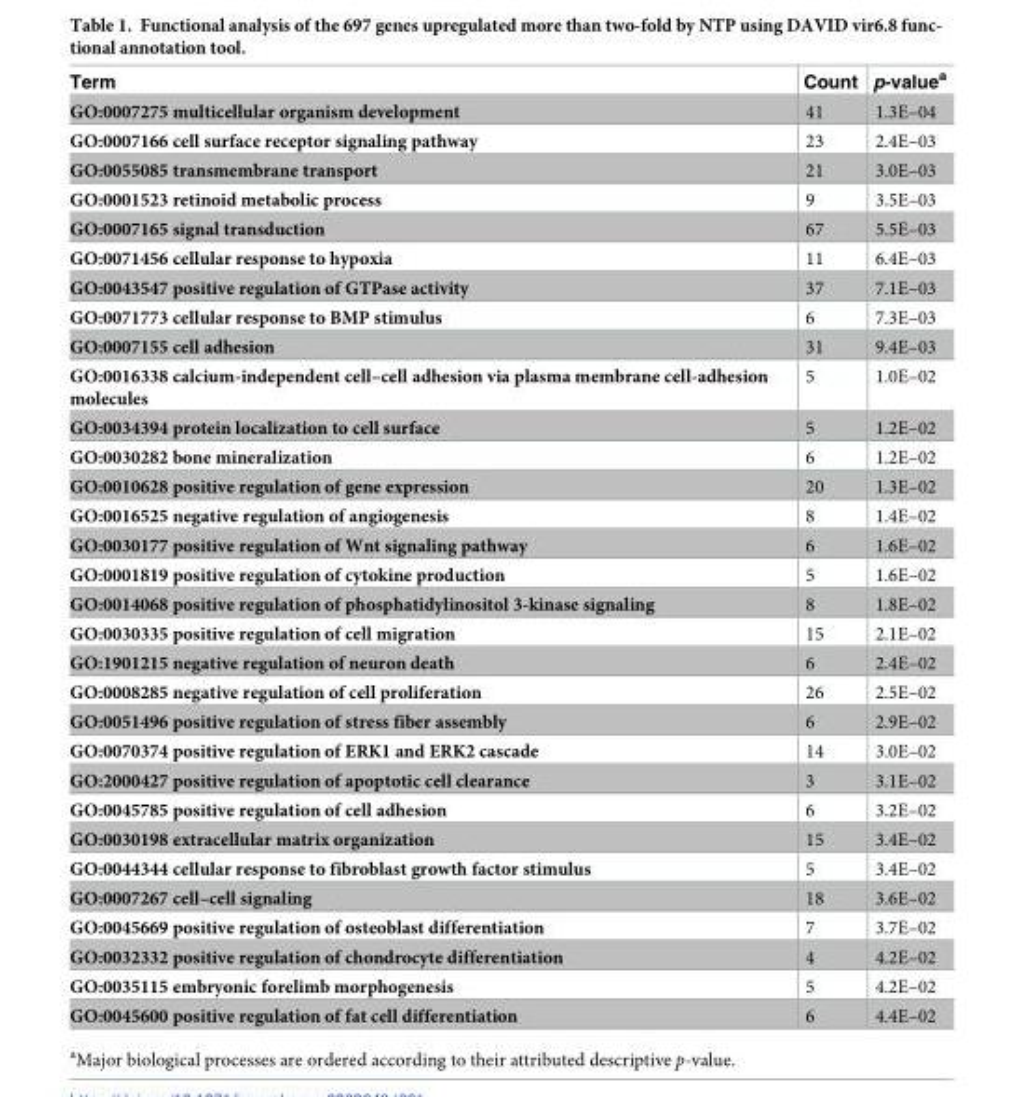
<table><thead><tr><td>Term</td><td>Count</td><td>p-value<sup>a</sup></td></tr></thead><tbody><tr><td>GO:0007275 multicellular organism development</td><td>41</td><td>1.3E–04</td></tr><tr><td>GO:0007166 cell surface receptor signaling pathway</td><td>23</td><td>2.4E–03</td></tr><tr><td>GO:0055085 transmembrane transport</td><td>21</td><td>3.0E–03</td></tr><tr><td>GO:0001523 retinoid metabolic process</td><td>9</td><td>3.5E–03</td></tr><tr><td>GO:0007165 signal transduction</td><td>67</td><td>5.5E–03</td></tr><tr><td>GO:0071456 cellular response to hypoxia</td><td>11</td><td>6.4E–03</td></tr><tr><td>GO:0043547 positive regulation of GTPase activity</td><td>37</td><td>7.1E–03</td></tr><tr><td>GO:0071773 cellular response to BMP stimulus</td><td>6</td><td>7.3E–03</td></tr><tr><td>GO:0007155 cell adhesion</td><td>31</td><td>9.4E–03</td></tr><tr><td>GO:0016338 calcium-independent cell–cell adhesion via plasma membrane cell-adhesion molecules</td><td>5</td><td>1.0E–02</td></tr><tr><td>GO:0034394 protein localization to cell surface</td><td>5</td><td>1.2E–02</td></tr><tr><td>GO:0030282 bone mineralization</td><td>6</td><td>1.2E–02</td></tr><tr><td>GO:0010628 positive regulation of gene expression</td><td>20</td><td>1.3E–02</td></tr><tr><td>GO:0016525 negative regulation of angiogenesis</td><td>8</td><td>1.4E–02</td></tr><tr><td>GO:0030177 positive regulation of Wnt signaling pathway</td><td>6</td><td>1.6E–02</td></tr><tr><td>GO:0001819 positive regulation of cytokine production</td><td>5</td><td>1.6E–02</td></tr><tr><td>GO:0014068 positive regulation of phosphatidylinositol 3-kinase signaling</td><td>8</td><td>1.8E–02</td></tr><tr><td>GO:0030335 positive regulation of cell migration</td><td>15</td><td>2.1E–02</td></tr><tr><td>GO:1901215 negative regulation of neuron death</td><td>6</td><td>2.4E–02</td></tr><tr><td>GO:0008285 negative regulation of cell proliferation</td><td>26</td><td>2.5E–02</td></tr><tr><td>GO:0051496 positive regulation of stress fiber assembly</td><td>6</td><td>2.9E–02</td></tr><tr><td>GO:0070374 positive regulation of ERK1 and ERK2 cascade</td><td>14</td><td>3.0E–02</td></tr><tr><td>GO:2000427 positive regulation of apoptotic cell clearance</td><td>3</td><td>3.1E–02</td></tr><tr><td>GO:0045785 positive regulation of cell adhesion</td><td>6</td><td>3.2E–02</td></tr><tr><td>GO:0030198 extracellular matrix organization</td><td>15</td><td>3.4E–02</td></tr><tr><td>GO:0044344 cellular response to fibroblast growth factor stimulus</td><td>5</td><td>3.4E–02</td></tr><tr><td>GO:0007267 cell–cell signaling</td><td>18</td><td>3.6E–02</td></tr><tr><td>GO:0045669 positive regulation of osteoblast differentiation</td><td>7</td><td>3.7E–02</td></tr><tr><td>GO:0032332 positive regulation of chondrocyte differentiation</td><td>4</td><td>4.2E–02</td></tr><tr><td>GO:0035115 embryonic forelimb morphogenesis</td><td>5</td><td>4.2E–02</td></tr><tr><td>GO:0045600 positive regulation of fat cell differentiation</td><td>6</td><td>4.4E–02</td></tr></tbody></table>